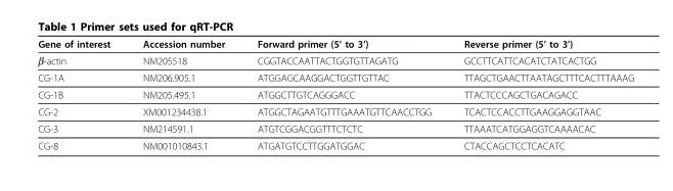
<table><thead><tr><td>Gene of interest</td><td>Accession number</td><td>Forward primer (5’ to 3’)</td><td>Reverse primer (5’ to 3’)</td></tr></thead><tbody><tr><td>β-actin</td><td>NM205518</td><td>CGGTACCAATTACTGGTGTTAGATG</td><td>GCCTTCATTCACATCTATCACTGG</td></tr><tr><td>CG-1A</td><td>NM206.905.1</td><td>ATGGAGCAAGGACTGGTTGTTAC</td><td>TTAGCTGAACTTAATAGCTTTCACTTTAAAG</td></tr><tr><td>CG-1B</td><td>NM205.495.1</td><td>ATGGCTTGTCAGGGACC</td><td>TTACTCCCAGCTGACAGACC</td></tr><tr><td>CG-2</td><td>XM001234438.1</td><td>ATGGCTAGAATGTTTGAAATGTTCAACCTGG</td><td>TCACTCCACCTTGAAGGAGGTAAC</td></tr><tr><td>CG-3</td><td>NM214591.1</td><td>ATGTCGGACGGTTTCTCTC</td><td>TTAAATCATGGAGGTCAAAACAC</td></tr><tr><td>CG-8</td><td>NM001010843.1</td><td>ATGATGTCCTTGGATGGAC</td><td>CTACCAGCTCCTCACATC</td></tr></tbody></table>